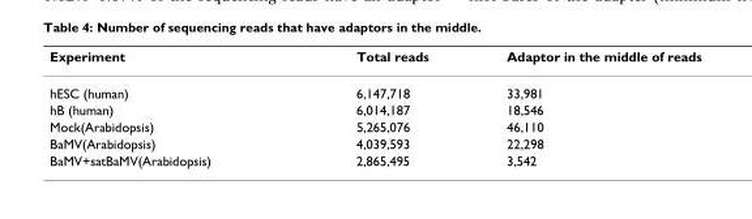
<table><thead><tr><td>Experiment</td><td>Total reads</td><td>Adaptor in the middle of reads</td></tr></thead><tbody><tr><td>hESC (human)</td><td>6,147,718</td><td>33,981</td></tr><tr><td>hB (human)</td><td>6,014,187</td><td>18,546</td></tr><tr><td>Mock(Arabidopsis)</td><td>5,265,076</td><td>46,110</td></tr><tr><td>BaMV(Arabidopsis)</td><td>4,039,593</td><td>22,298</td></tr><tr><td>BaMV+satBaMV(Arabidopsis)</td><td>2,865,495</td><td>3,542</td></tr></tbody></table>